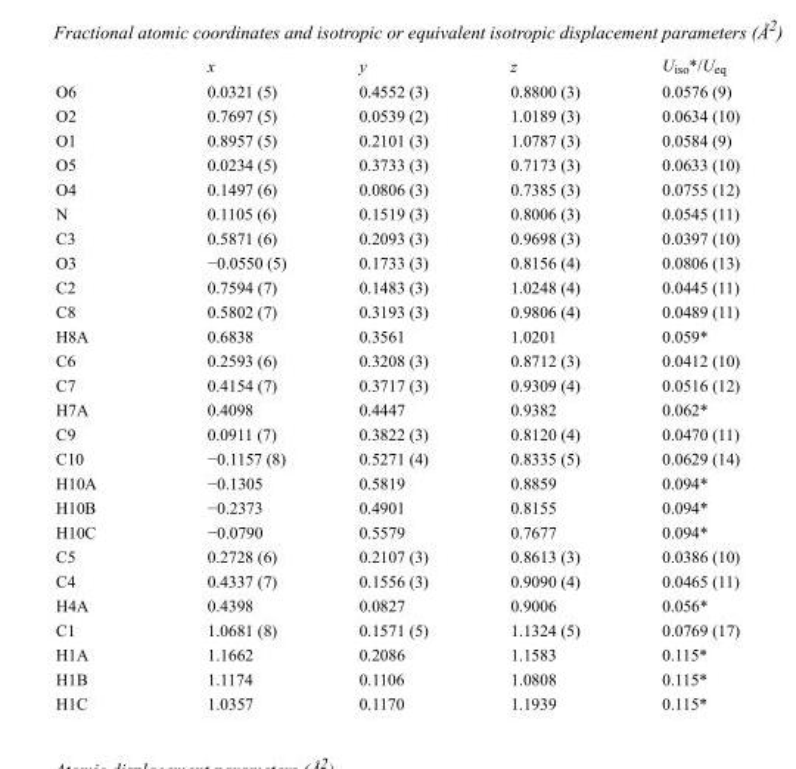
<table><thead><tr><td></td><td>x</td><td>y</td><td>z</td><td>U<sub>iso</sub>*/U<sub>eq</sub></td></tr></thead><tbody><tr><td>O6</td><td>0.0321 (5)</td><td>0.4552 (3)</td><td>0.8800 (3)</td><td>0.0576 (9)</td></tr><tr><td>O2</td><td>0.7697 (5)</td><td>0.0539 (2)</td><td>1.0189 (3)</td><td>0.0634 (10)</td></tr><tr><td>O1</td><td>0.8957 (5)</td><td>0.2101 (3)</td><td>1.0787 (3)</td><td>0.0584 (9)</td></tr><tr><td>O5</td><td>0.0234 (5)</td><td>0.3733 (3)</td><td>0.7173 (3)</td><td>0.0633 (10)</td></tr><tr><td>O4</td><td>0.1497 (6)</td><td>0.0806 (3)</td><td>0.7385 (3)</td><td>0.0755 (12)</td></tr><tr><td>N</td><td>0.1105 (6)</td><td>0.1519 (3)</td><td>0.8006 (3)</td><td>0.0545 (11)</td></tr><tr><td>C3</td><td>0.5871 (6)</td><td>0.2093 (3)</td><td>0.9698 (3)</td><td>0.0397 (10)</td></tr><tr><td>O3</td><td>−0.0550 (5)</td><td>0.1733 (3)</td><td>0.8156 (4)</td><td>0.0806 (13)</td></tr><tr><td>C2</td><td>0.7594 (7)</td><td>0.1483 (3)</td><td>1.0248 (4)</td><td>0.0445 (11)</td></tr><tr><td>C8</td><td>0.5802 (7)</td><td>0.3193 (3)</td><td>0.9806 (4)</td><td>0.0489 (11)</td></tr><tr><td>H8A</td><td>0.6838</td><td>0.3561</td><td>1.0201</td><td>0.059*</td></tr><tr><td>C6</td><td>0.2593 (6)</td><td>0.3208 (3)</td><td>0.8712 (3)</td><td>0.0412 (10)</td></tr><tr><td>C7</td><td>0.4154 (7)</td><td>0.3717 (3)</td><td>0.9309 (4)</td><td>0.0516 (12)</td></tr><tr><td>H7A</td><td>0.4098</td><td>0.4447</td><td>0.9382</td><td>0.062*</td></tr><tr><td>C9</td><td>0.0911 (7)</td><td>0.3822 (3)</td><td>0.8120 (4)</td><td>0.0470 (11)</td></tr><tr><td>C10</td><td>−0.1157 (8)</td><td>0.5271 (4)</td><td>0.8335 (5)</td><td>0.0629 (14)</td></tr><tr><td>H10A</td><td>−0.1305</td><td>0.5819</td><td>0.8859</td><td>0.094*</td></tr><tr><td>H10B</td><td>−0.2373</td><td>0.4901</td><td>0.8155</td><td>0.094*</td></tr><tr><td>H10C</td><td>−0.0790</td><td>0.5579</td><td>0.7677</td><td>0.094*</td></tr><tr><td>C5</td><td>0.2728 (6)</td><td>0.2107 (3)</td><td>0.8613 (3)</td><td>0.0386 (10)</td></tr><tr><td>C4</td><td>0.4337 (7)</td><td>0.1556 (3)</td><td>0.9090 (4)</td><td>0.0465 (11)</td></tr><tr><td>H4A</td><td>0.4398</td><td>0.0827</td><td>0.9006</td><td>0.056*</td></tr><tr><td>C1</td><td>1.0681 (8)</td><td>0.1571 (5)</td><td>1.1324 (5)</td><td>0.0769 (17)</td></tr><tr><td>H1A</td><td>1.1662</td><td>0.2086</td><td>1.1583</td><td>0.115*</td></tr><tr><td>H1B</td><td>1.1174</td><td>0.1106</td><td>1.0808</td><td>0.115*</td></tr><tr><td>H1C</td><td>1.0357</td><td>0.1170</td><td>1.1939</td><td>0.115*</td></tr></tbody></table>